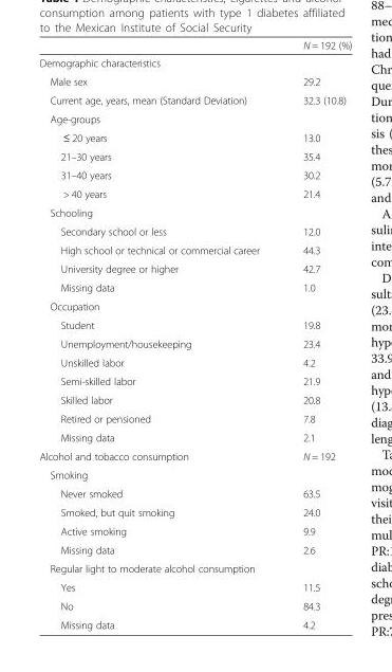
<table><thead><tr><td></td><td>N = 192 (%)</td></tr></thead><tbody><tr><td colspan="2">Demographic characteristics</td></tr><tr><td>Male sex</td><td>29.2</td></tr><tr><td>Current age, years, mean (Standard Deviation)</td><td>32.3 (10.8)</td></tr><tr><td colspan="2">Age-groups</td></tr><tr><td>≤ 20 years</td><td>13.0</td></tr><tr><td>21–30 years</td><td>35.4</td></tr><tr><td>31–40 years</td><td>30.2</td></tr><tr><td>&gt; 40 years</td><td>21.4</td></tr><tr><td colspan="2">Schooling</td></tr><tr><td>Secondary school or less</td><td>12.0</td></tr><tr><td>High school or technical or commercial career</td><td>44.3</td></tr><tr><td>University degree or higher</td><td>42.7</td></tr><tr><td>Missing data</td><td>1.0</td></tr><tr><td colspan="2">Occupation</td></tr><tr><td>Student</td><td>19.8</td></tr><tr><td>Unemployment/housekeeping</td><td>23.4</td></tr><tr><td>Unskilled labor</td><td>4.2</td></tr><tr><td>Semi-skilled labor</td><td>21.9</td></tr><tr><td>Skilled labor</td><td>20.8</td></tr><tr><td>Retired or pensioned</td><td>7.8</td></tr><tr><td>Missing data</td><td>2.1</td></tr><tr><td>Alcohol and tobacco consumption</td><td>N = 192</td></tr><tr><td colspan="2">Smoking</td></tr><tr><td>Never smoked</td><td>63.5</td></tr><tr><td>Smoked, but quit smoking</td><td>24.0</td></tr><tr><td>Active smoking</td><td>9.9</td></tr><tr><td>Missing data</td><td>2.6</td></tr><tr><td colspan="2">Regular light to moderate alcohol consumption</td></tr><tr><td>Yes</td><td>11.5</td></tr><tr><td>No</td><td>84.3</td></tr><tr><td>Missing data</td><td>4.2</td></tr></tbody></table>